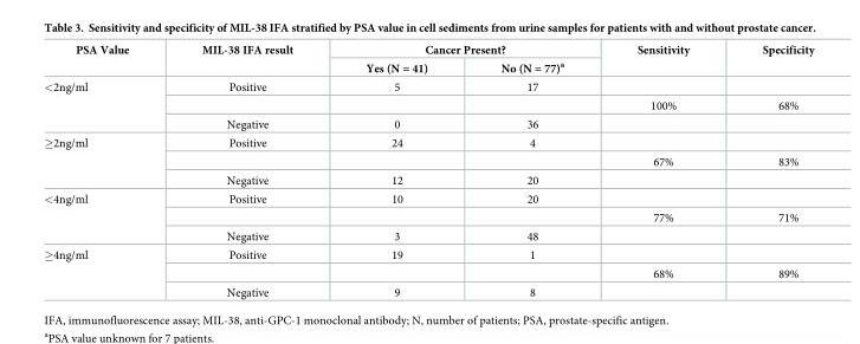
<table><thead><tr><td rowspan="2">PSA Value</td><td rowspan="2">MIL-38 IFA result</td><td colspan="2">Cancer Present?</td><td rowspan="2">Sensitivity</td><td rowspan="2">Specificity</td></tr><tr><td>Yes (N = 41)</td><td>No (N = 77)<sup>a</sup></td></tr></thead><tbody><tr><td rowspan="3">&lt;2ng/ml</td><td>Positive</td><td>5</td><td>17</td><td></td><td></td></tr><tr><td></td><td></td><td></td><td>100%</td><td>68%</td></tr><tr><td>Negative</td><td>0</td><td>36</td><td></td><td></td></tr><tr><td rowspan="3">≥2ng/ml</td><td>Positive</td><td>24</td><td>4</td><td></td><td></td></tr><tr><td></td><td></td><td></td><td>67%</td><td>83%</td></tr><tr><td>Negative</td><td>12</td><td>20</td><td></td><td></td></tr><tr><td rowspan="3">&lt;4ng/ml</td><td>Positive</td><td>10</td><td>20</td><td></td><td></td></tr><tr><td></td><td></td><td></td><td>77%</td><td>71%</td></tr><tr><td>Negative</td><td>3</td><td>48</td><td></td><td></td></tr><tr><td rowspan="3">≥4ng/ml</td><td>Positive</td><td>19</td><td>1</td><td></td><td></td></tr><tr><td></td><td></td><td></td><td>68%</td><td>89%</td></tr><tr><td>Negative</td><td>9</td><td>8</td><td></td><td></td></tr></tbody></table>